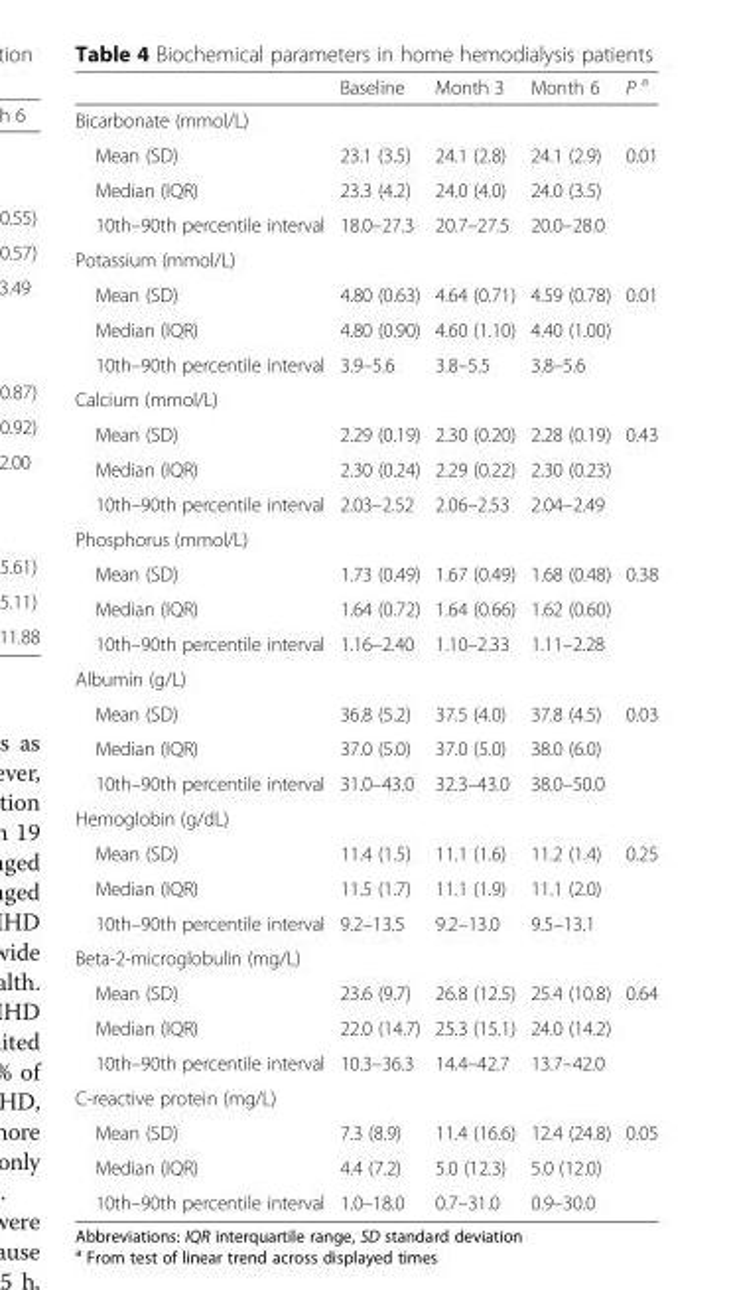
<table><thead><tr><td></td><td>Baseline</td><td>Month 3</td><td>Month 6</td><td>P <sup>a</sup></td></tr></thead><tbody><tr><td colspan="5">Bicarbonate (mmol/L)</td></tr><tr><td>Mean (SD)</td><td>23.1 (3.5)</td><td>24.1 (2.8)</td><td>24.1 (2.9)</td><td>0.01</td></tr><tr><td>Median (IQR)</td><td>23.3 (4.2)</td><td>24.0 (4.0)</td><td>24.0 (3.5)</td><td></td></tr><tr><td>10th–90th percentile interval</td><td>18.0–27.3</td><td>20.7–27.5</td><td>20.0–28.0</td><td></td></tr><tr><td colspan="5">Potassium (mmol/L)</td></tr><tr><td>Mean (SD)</td><td>4.80 (0.63)</td><td>4.64 (0.71)</td><td>4.59 (0.78)</td><td>0.01</td></tr><tr><td>Median (IQR)</td><td>4.80 (0.90)</td><td>4.60 (1.10)</td><td>4.40 (1.00)</td><td></td></tr><tr><td>10th–90th percentile interval</td><td>3.9–5.6</td><td>3.8–5.5</td><td>3.8–5.6</td><td></td></tr><tr><td colspan="5">Calcium (mmol/L)</td></tr><tr><td>Mean (SD)</td><td>2.29 (0.19)</td><td>2.30 (0.20)</td><td>2.28 (0.19)</td><td>0.43</td></tr><tr><td>Median (IQR)</td><td>2.30 (0.24)</td><td>2.29 (0.22)</td><td>2.30 (0.23)</td><td></td></tr><tr><td>10th–90th percentile interval</td><td>2.03–2.52</td><td>2.06–2.53</td><td>2.04–2.49</td><td></td></tr><tr><td colspan="5">Phosphorus (mmol/L)</td></tr><tr><td>Mean (SD)</td><td>1.73 (0.49)</td><td>1.67 (0.49)</td><td>1.68 (0.48)</td><td>0.38</td></tr><tr><td>Median (IQR)</td><td>1.64 (0.72)</td><td>1.64 (0.66)</td><td>1.62 (0.60)</td><td></td></tr><tr><td>10th–90th percentile interval</td><td>1.16–2.40</td><td>1.10–2.33</td><td>1.11–2.28</td><td></td></tr><tr><td colspan="5">Albumin (g/L)</td></tr><tr><td>Mean (SD)</td><td>36.8 (5.2)</td><td>37.5 (4.0)</td><td>37.8 (4.5)</td><td>0.03</td></tr><tr><td>Median (IQR)</td><td>37.0 (5.0)</td><td>37.0 (5.0)</td><td>38.0 (6.0)</td><td></td></tr><tr><td>10th–90th percentile interval</td><td>31.0–43.0</td><td>32.3–43.0</td><td>38.0–50.0</td><td></td></tr><tr><td colspan="5">Hemoglobin (g/dL)</td></tr><tr><td>Mean (SD)</td><td>11.4 (1.5)</td><td>11.1 (1.6)</td><td>11.2 (1.4)</td><td>0.25</td></tr><tr><td>Median (IQR)</td><td>11.5 (1.7)</td><td>11.1 (1.9)</td><td>11.1 (2.0)</td><td></td></tr><tr><td>10th–90th percentile interval</td><td>9.2–13.5</td><td>9.2–13.0</td><td>9.5–13.1</td><td></td></tr><tr><td colspan="5">Beta-2-microglobulin (mg/L)</td></tr><tr><td>Mean (SD)</td><td>23.6 (9.7)</td><td>26.8 (12.5)</td><td>25.4 (10.8)</td><td>0.64</td></tr><tr><td>Median (IQR)</td><td>22.0 (14.7)</td><td>25.3 (15.1)</td><td>24.0 (14.2)</td><td></td></tr><tr><td>10th–90th percentile interval</td><td>10.3–36.3</td><td>14.4–42.7</td><td>13.7–42.0</td><td></td></tr><tr><td colspan="5">C-reactive protein (mg/L)</td></tr><tr><td>Mean (SD)</td><td>7.3 (8.9)</td><td>11.4 (16.6)</td><td>12.4 (24.8)</td><td>0.05</td></tr><tr><td>Median (IQR)</td><td>4.4 (7.2)</td><td>5.0 (12.3)</td><td>5.0 (12.0)</td><td></td></tr><tr><td>10th–90th percentile interval</td><td>1.0–18.0</td><td>0.7–31.0</td><td>0.9–30.0</td><td></td></tr></tbody></table>